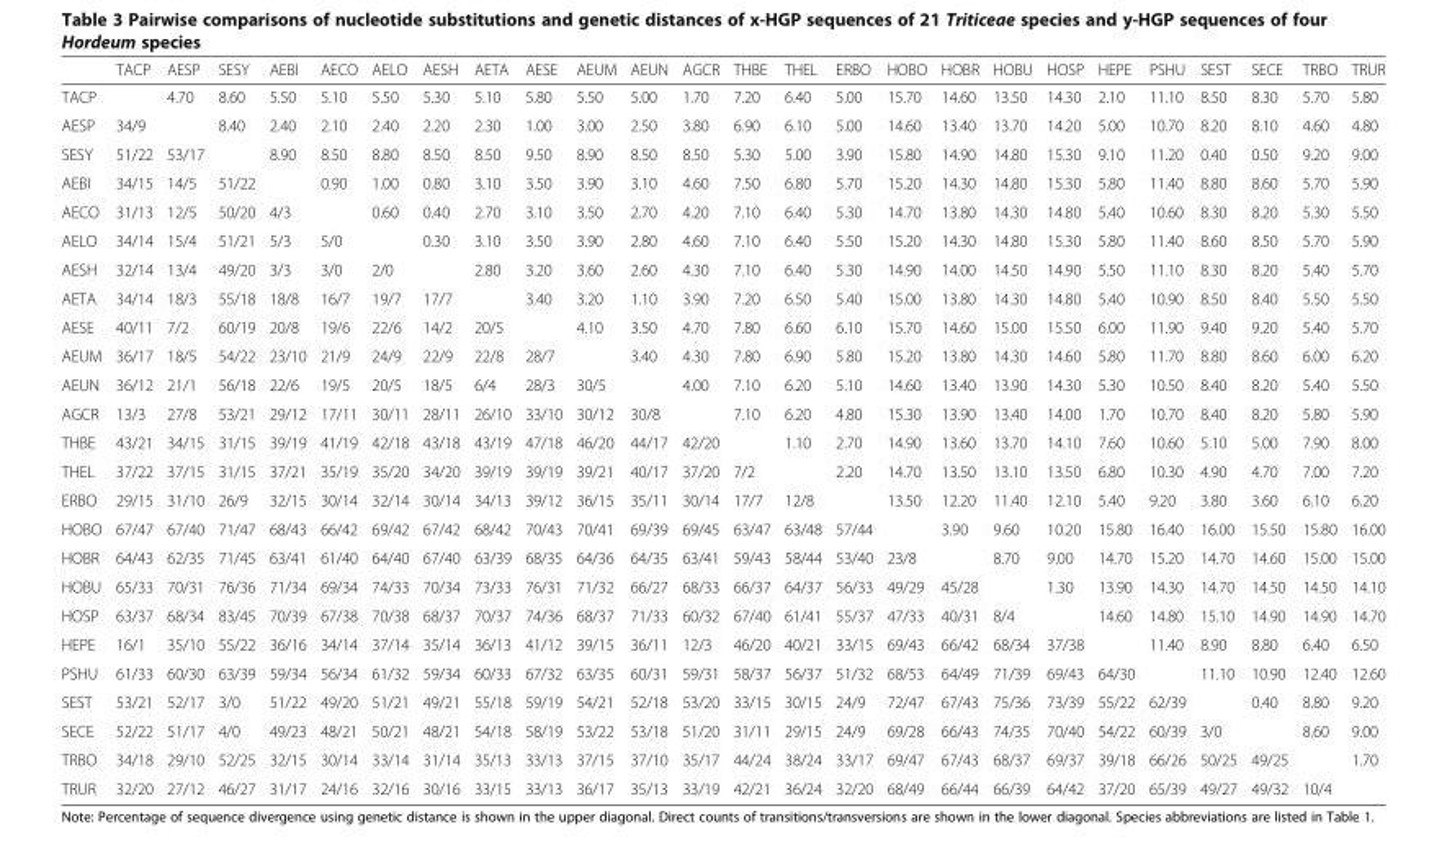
<table><thead><tr><td></td><td>TACP</td><td>AESP</td><td>SESY</td><td>AEBI</td><td>AECO</td><td>AELO</td><td>AESH</td><td>AETA</td><td>AESE</td><td>AEUM</td><td>AEUN</td><td>AGCR</td><td>THBE</td><td>THEL</td><td>ERBO</td><td>HOBO</td><td>HOBR</td><td>HOBU</td><td>HOSP</td><td>HEPE</td><td>PSHU</td><td>SEST</td><td>SECE</td><td>TRBO</td><td>TRUR</td></tr></thead><tbody><tr><td>TACP</td><td></td><td>4.70</td><td>8.60</td><td>5.50</td><td>5.10</td><td>5.50</td><td>5.30</td><td>5.10</td><td>5.80</td><td>5.50</td><td>5.00</td><td>1.70</td><td>7.20</td><td>6.40</td><td>5.00</td><td>15.70</td><td>14.60</td><td>13.50</td><td>14.30</td><td>2.10</td><td>11.10</td><td>8.50</td><td>8.30</td><td>5.70</td><td>5.80</td></tr><tr><td>AESP</td><td>34/9</td><td></td><td>8.40</td><td>2.40</td><td>2.10</td><td>2.40</td><td>2.20</td><td>2.30</td><td>1.00</td><td>3.00</td><td>2.50</td><td>3.80</td><td>6.90</td><td>6.10</td><td>5.00</td><td>14.60</td><td>13.40</td><td>13.70</td><td>14.20</td><td>5.00</td><td>10.70</td><td>8.20</td><td>8.10</td><td>4.60</td><td>4.80</td></tr><tr><td>SESY</td><td>51/22</td><td>53/17</td><td></td><td>8.90</td><td>8.50</td><td>8.80</td><td>8.50</td><td>8.50</td><td>9.50</td><td>8.90</td><td>8.50</td><td>8.50</td><td>5.30</td><td>5.00</td><td>3.90</td><td>15.80</td><td>14.90</td><td>14.80</td><td>15.30</td><td>9.10</td><td>11.20</td><td>0.40</td><td>0.50</td><td>9.20</td><td>9.00</td></tr><tr><td>AEBI</td><td>34/15</td><td>14/5</td><td>51/22</td><td></td><td>0.90</td><td>1.00</td><td>0.80</td><td>3.10</td><td>3.50</td><td>3.90</td><td>3.10</td><td>4.60</td><td>7.50</td><td>6.80</td><td>5.70</td><td>15.20</td><td>14.30</td><td>14.80</td><td>15.30</td><td>5.80</td><td>11.40</td><td>8.80</td><td>8.60</td><td>5.70</td><td>5.90</td></tr><tr><td>AECO</td><td>31/13</td><td>12/5</td><td>50/20</td><td>4/3</td><td></td><td>0.60</td><td>0.40</td><td>2.70</td><td>3.10</td><td>3.50</td><td>2.70</td><td>4.20</td><td>7.10</td><td>6.40</td><td>5.30</td><td>14.70</td><td>13.80</td><td>14.30</td><td>14.80</td><td>5.40</td><td>10.60</td><td>8.30</td><td>8.20</td><td>5.30</td><td>5.50</td></tr><tr><td>AELO</td><td>34/14</td><td>15/4</td><td>51/21</td><td>5/3</td><td>5/0</td><td></td><td>0.30</td><td>3.10</td><td>3.50</td><td>3.90</td><td>2.80</td><td>4.60</td><td>7.10</td><td>6.40</td><td>5.50</td><td>15.20</td><td>14.30</td><td>14.80</td><td>15.30</td><td>5.80</td><td>11.40</td><td>8.60</td><td>8.50</td><td>5.70</td><td>5.90</td></tr><tr><td>AESH</td><td>32/14</td><td>13/4</td><td>49/20</td><td>3/3</td><td>3/0</td><td>2/0</td><td></td><td>2.80</td><td>3.20</td><td>3.60</td><td>2.60</td><td>4.30</td><td>7.10</td><td>6.40</td><td>5.30</td><td>14.90</td><td>14.00</td><td>14.50</td><td>14.90</td><td>5.50</td><td>11.10</td><td>8.30</td><td>8.20</td><td>5.40</td><td>5.70</td></tr><tr><td>AETA</td><td>34/14</td><td>18/3</td><td>55/18</td><td>18/8</td><td>16/7</td><td>19/7</td><td>17/7</td><td></td><td>3.40</td><td>3.20</td><td>1.10</td><td>3.90</td><td>7.20</td><td>6.50</td><td>5.40</td><td>15.00</td><td>13.80</td><td>14.30</td><td>14.80</td><td>5.40</td><td>10.90</td><td>8.50</td><td>8.40</td><td>5.50</td><td>5.50</td></tr><tr><td>AESE</td><td>40/11</td><td>7/2</td><td>60/19</td><td>20/8</td><td>19/6</td><td>22/6</td><td>14/2</td><td>20/5</td><td></td><td>4.10</td><td>3.50</td><td>4.70</td><td>7.80</td><td>6.60</td><td>6.10</td><td>15.70</td><td>14.60</td><td>15.00</td><td>15.50</td><td>6.00</td><td>11.90</td><td>9.40</td><td>9.20</td><td>5.40</td><td>5.70</td></tr><tr><td>AEUM</td><td>36/17</td><td>18/5</td><td>54/22</td><td>23/10</td><td>21/9</td><td>24/9</td><td>22/9</td><td>22/8</td><td>28/7</td><td></td><td>3.40</td><td>4.30</td><td>7.80</td><td>6.90</td><td>5.80</td><td>15.20</td><td>13.80</td><td>14.30</td><td>14.60</td><td>5.80</td><td>11.70</td><td>8.80</td><td>8.60</td><td>6.00</td><td>6.20</td></tr><tr><td>AEUN</td><td>36/12</td><td>21/1</td><td>56/18</td><td>22/6</td><td>19/5</td><td>20/5</td><td>18/5</td><td>6/4</td><td>28/3</td><td>30/5</td><td></td><td>4.00</td><td>7.10</td><td>6.20</td><td>5.10</td><td>14.60</td><td>13.40</td><td>13.90</td><td>14.30</td><td>5.30</td><td>10.50</td><td>8.40</td><td>8.20</td><td>5.40</td><td>5.50</td></tr><tr><td>AGCR</td><td>13/3</td><td>27/8</td><td>53/21</td><td>29/12</td><td>17/11</td><td>30/11</td><td>28/11</td><td>26/10</td><td>33/10</td><td>30/12</td><td>30/8</td><td></td><td>7.10</td><td>6.20</td><td>4.80</td><td>15.30</td><td>13.90</td><td>13.40</td><td>14.00</td><td>1.70</td><td>10.70</td><td>8.40</td><td>8.20</td><td>5.80</td><td>5.90</td></tr><tr><td>THBE</td><td>43/21</td><td>34/15</td><td>31/15</td><td>39/19</td><td>41/19</td><td>42/18</td><td>43/18</td><td>43/19</td><td>47/18</td><td>46/20</td><td>44/17</td><td>42/20</td><td></td><td>1.10</td><td>2.70</td><td>14.90</td><td>13.60</td><td>13.70</td><td>14.10</td><td>7.60</td><td>10.60</td><td>5.10</td><td>5.00</td><td>7.90</td><td>8.00</td></tr><tr><td>THEL</td><td>37/22</td><td>37/15</td><td>31/15</td><td>37/21</td><td>35/19</td><td>35/20</td><td>34/20</td><td>39/19</td><td>39/19</td><td>39/21</td><td>40/17</td><td>37/20</td><td>7/2</td><td></td><td>2.20</td><td>14.70</td><td>13.50</td><td>13.10</td><td>13.50</td><td>6.80</td><td>10.30</td><td>4.90</td><td>4.70</td><td>7.00</td><td>7.20</td></tr><tr><td>ERBO</td><td>29/15</td><td>31/10</td><td>26/9</td><td>32/15</td><td>30/14</td><td>32/14</td><td>30/14</td><td>34/13</td><td>39/12</td><td>36/15</td><td>35/11</td><td>30/14</td><td>17/7</td><td>12/8</td><td></td><td>13.50</td><td>12.20</td><td>11.40</td><td>12.10</td><td>5.40</td><td>9.20</td><td>3.80</td><td>3.60</td><td>6.10</td><td>6.20</td></tr><tr><td>HOBO</td><td>67/47</td><td>67/40</td><td>71/47</td><td>68/43</td><td>66/42</td><td>69/42</td><td>67/42</td><td>68/42</td><td>70/43</td><td>70/41</td><td>69/39</td><td>69/45</td><td>63/47</td><td>63/48</td><td>57/44</td><td></td><td>3.90</td><td>9.60</td><td>10.20</td><td>15.80</td><td>16.40</td><td>16.00</td><td>15.50</td><td>15.80</td><td>16.00</td></tr><tr><td>HOBR</td><td>64/43</td><td>62/35</td><td>71/45</td><td>63/41</td><td>61/40</td><td>64/40</td><td>67/40</td><td>63/39</td><td>68/35</td><td>64/36</td><td>64/35</td><td>63/41</td><td>59/43</td><td>58/44</td><td>53/40</td><td>23/8</td><td></td><td>8.70</td><td>9.00</td><td>14.70</td><td>15.20</td><td>14.70</td><td>14.60</td><td>15.00</td><td>15.00</td></tr><tr><td>HOBU</td><td>65/33</td><td>70/31</td><td>76/36</td><td>71/34</td><td>69/34</td><td>74/33</td><td>70/34</td><td>73/33</td><td>76/31</td><td>71/32</td><td>66/27</td><td>68/33</td><td>66/37</td><td>64/37</td><td>56/33</td><td>49/29</td><td>45/28</td><td></td><td>1.30</td><td>13.90</td><td>14.30</td><td>14.70</td><td>14.50</td><td>14.50</td><td>14.10</td></tr><tr><td>HOSP</td><td>63/37</td><td>68/34</td><td>83/45</td><td>70/39</td><td>67/38</td><td>70/38</td><td>68/37</td><td>70/37</td><td>74/36</td><td>68/37</td><td>71/33</td><td>60/32</td><td>67/40</td><td>61/41</td><td>55/37</td><td>47/33</td><td>40/31</td><td>8/4</td><td></td><td>14.60</td><td>14.80</td><td>15.10</td><td>14.90</td><td>14.90</td><td>14.70</td></tr><tr><td>HEPE</td><td>16/1</td><td>35/10</td><td>55/22</td><td>36/16</td><td>34/14</td><td>37/14</td><td>35/14</td><td>36/13</td><td>41/12</td><td>39/15</td><td>36/11</td><td>12/3</td><td>46/20</td><td>40/21</td><td>33/15</td><td>69/43</td><td>66/42</td><td>68/34</td><td>37/38</td><td></td><td>11.40</td><td>8.90</td><td>8.80</td><td>6.40</td><td>6.50</td></tr><tr><td>PSHU</td><td>61/33</td><td>60/30</td><td>63/39</td><td>59/34</td><td>56/34</td><td>61/32</td><td>59/34</td><td>60/33</td><td>67/32</td><td>63/35</td><td>60/31</td><td>59/31</td><td>58/37</td><td>56/37</td><td>51/32</td><td>68/53</td><td>64/49</td><td>71/39</td><td>69/43</td><td>64/30</td><td></td><td>11.10</td><td>10.90</td><td>12.40</td><td>12.60</td></tr><tr><td>SEST</td><td>53/21</td><td>52/17</td><td>3/0</td><td>51/22</td><td>49/20</td><td>51/21</td><td>49/21</td><td>55/18</td><td>59/19</td><td>54/21</td><td>52/18</td><td>53/20</td><td>33/15</td><td>30/15</td><td>24/9</td><td>72/47</td><td>67/43</td><td>75/36</td><td>73/39</td><td>55/22</td><td>62/39</td><td></td><td>0.40</td><td>8.80</td><td>9.20</td></tr><tr><td>SECE</td><td>52/22</td><td>51/17</td><td>4/0</td><td>49/23</td><td>48/21</td><td>50/21</td><td>48/21</td><td>54/18</td><td>58/19</td><td>53/22</td><td>53/18</td><td>51/20</td><td>31/11</td><td>29/15</td><td>24/9</td><td>69/28</td><td>66/43</td><td>74/35</td><td>70/40</td><td>54/22</td><td>60/39</td><td>3/0</td><td></td><td>8.60</td><td>9.00</td></tr><tr><td>TRBO</td><td>34/18</td><td>29/10</td><td>52/25</td><td>32/15</td><td>30/14</td><td>33/14</td><td>31/14</td><td>35/13</td><td>33/13</td><td>37/15</td><td>37/10</td><td>35/17</td><td>44/24</td><td>38/24</td><td>33/17</td><td>69/47</td><td>67/43</td><td>68/37</td><td>69/37</td><td>39/18</td><td>66/26</td><td>50/25</td><td>49/25</td><td></td><td>1.70</td></tr><tr><td>TRUR</td><td>32/20</td><td>27/12</td><td>46/27</td><td>31/17</td><td>24/16</td><td>32/16</td><td>30/16</td><td>33/15</td><td>33/13</td><td>36/17</td><td>35/13</td><td>33/19</td><td>42/21</td><td>36/24</td><td>32/20</td><td>68/49</td><td>66/44</td><td>66/39</td><td>64/42</td><td>37/20</td><td>65/39</td><td>49/27</td><td>49/32</td><td>10/4</td><td></td></tr></tbody></table>